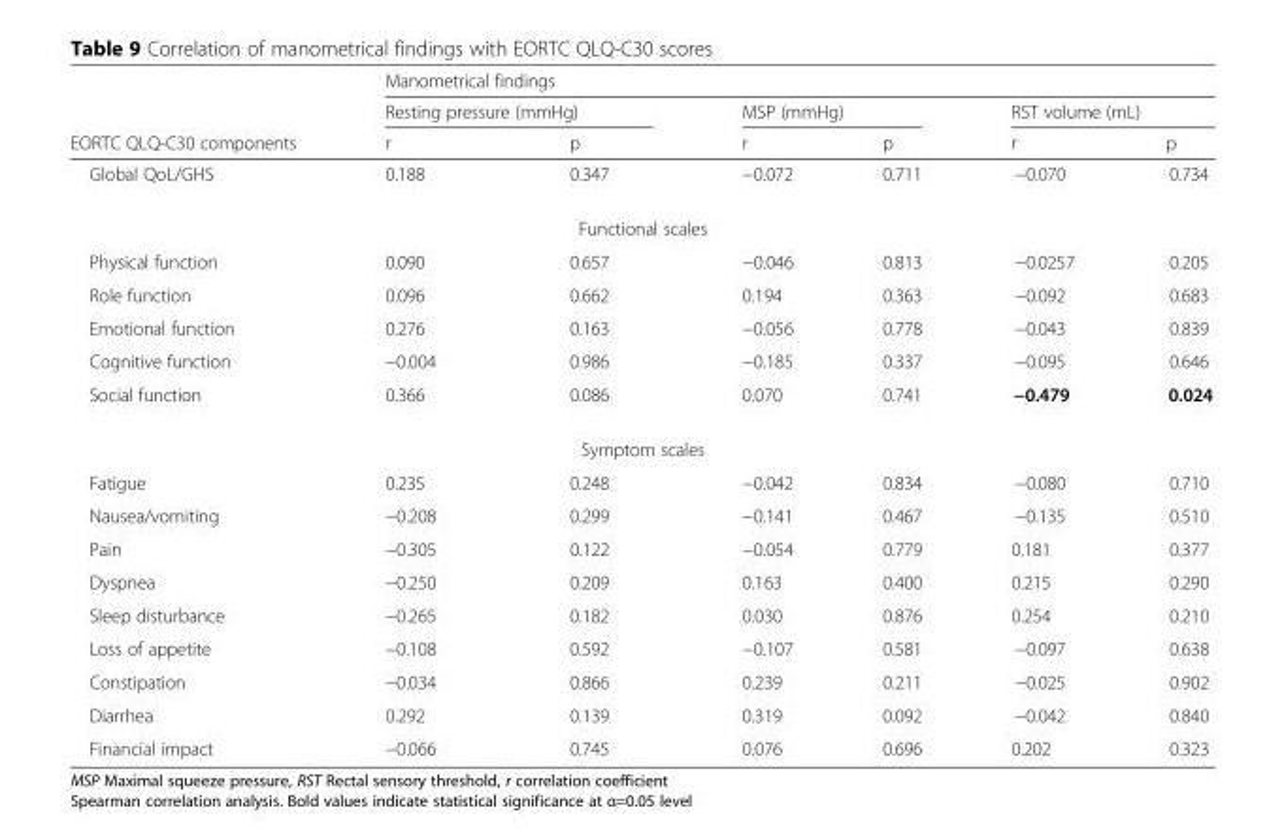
<table><thead><tr><td rowspan="3">EORTC QLQ-C30 components</td><td colspan="6">Manometrical findings</td></tr><tr><td colspan="2">Resting pressure (mmHg)</td><td colspan="2">MSP (mmHg)</td><td colspan="2">RST volume (mL)</td></tr><tr><td>r</td><td>p</td><td>r</td><td>p</td><td>r</td><td>p</td></tr></thead><tbody><tr><td>Global QoL/GHS</td><td>0.188</td><td>0.347</td><td>−0.072</td><td>0.711</td><td>−0.070</td><td>0.734</td></tr><tr><td colspan="7">Functional scales</td></tr><tr><td>Physical function</td><td>0.090</td><td>0.657</td><td>−0.046</td><td>0.813</td><td>−0.0257</td><td>0.205</td></tr><tr><td>Role function</td><td>0.096</td><td>0.662</td><td>0.194</td><td>0.363</td><td>−0.092</td><td>0.683</td></tr><tr><td>Emotional function</td><td>0.276</td><td>0.163</td><td>−0.056</td><td>0.778</td><td>−0.043</td><td>0.839</td></tr><tr><td>Cognitive function</td><td>−0.004</td><td>0.986</td><td>−0.185</td><td>0.337</td><td>−0.095</td><td>0.646</td></tr><tr><td>Social function</td><td>0.366</td><td>0.086</td><td>0.070</td><td>0.741</td><td>−0.479</td><td>0.024</td></tr><tr><td colspan="7">Symptom scales</td></tr><tr><td>Fatigue</td><td>0.235</td><td>0.248</td><td>−0.042</td><td>0.834</td><td>−0.080</td><td>0.710</td></tr><tr><td>Nausea/vomiting</td><td>−0.208</td><td>0.299</td><td>−0.141</td><td>0.467</td><td>−0.135</td><td>0.510</td></tr><tr><td>Pain</td><td>−0.305</td><td>0.122</td><td>−0.054</td><td>0.779</td><td>0.181</td><td>0.377</td></tr><tr><td>Dyspnea</td><td>−0.250</td><td>0.209</td><td>0.163</td><td>0.400</td><td>0.215</td><td>0.290</td></tr><tr><td>Sleep disturbance</td><td>−0.265</td><td>0.182</td><td>0.030</td><td>0.876</td><td>0.254</td><td>0.210</td></tr><tr><td>Loss of appetite</td><td>−0.108</td><td>0.592</td><td>−0.107</td><td>0.581</td><td>−0.097</td><td>0.638</td></tr><tr><td>Constipation</td><td>−0.034</td><td>0.866</td><td>0.239</td><td>0.211</td><td>−0.025</td><td>0.902</td></tr><tr><td>Diarrhea</td><td>0.292</td><td>0.139</td><td>0.319</td><td>0.092</td><td>−0.042</td><td>0.840</td></tr><tr><td>Financial impact</td><td>−0.066</td><td>0.745</td><td>0.076</td><td>0.696</td><td>0.202</td><td>0.323</td></tr></tbody></table>